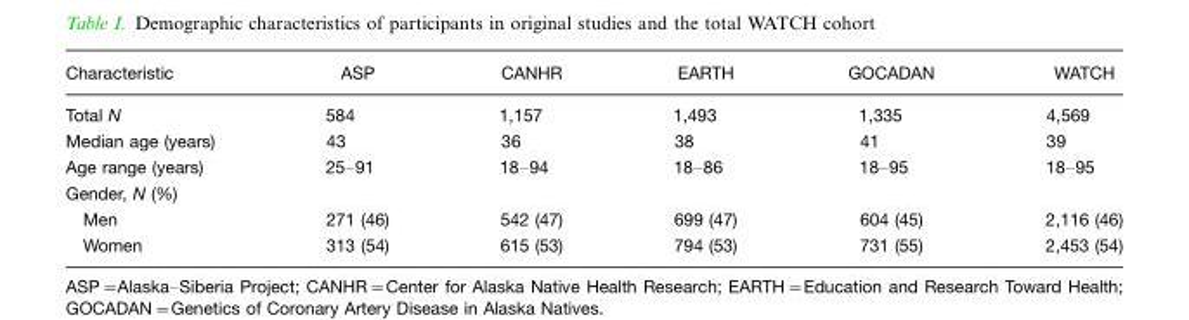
<table><thead><tr><td>Characteristic</td><td>ASP</td><td>CANHR</td><td>EARTH</td><td>GOCADAN</td><td>WATCH</td></tr></thead><tbody><tr><td>Total N</td><td>584</td><td>1,157</td><td>1,493</td><td>1,335</td><td>4,569</td></tr><tr><td>Median age (years)</td><td>43</td><td>36</td><td>38</td><td>41</td><td>39</td></tr><tr><td>Age range (years)</td><td>25–91</td><td>18–94</td><td>18–86</td><td>18–95</td><td>18–95</td></tr><tr><td colspan="6">Gender, N (%)</td></tr><tr><td>Men</td><td>271 (46)</td><td>542 (47)</td><td>699 (47)</td><td>604 (45)</td><td>2,116 (46)</td></tr><tr><td>Women</td><td>313 (54)</td><td>615 (53)</td><td>794 (53)</td><td>731 (55)</td><td>2,453 (54)</td></tr></tbody></table>